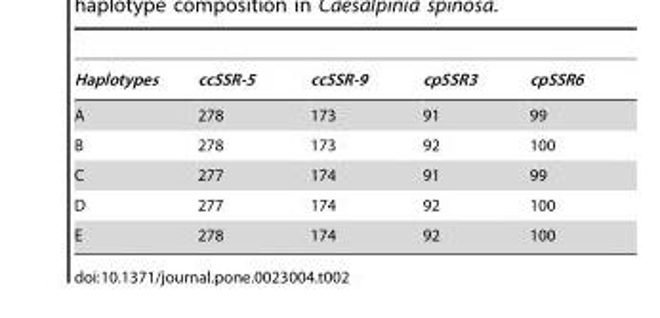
<table><thead><tr><td>Haplotypes</td><td>ccSSR-5</td><td>ccSSR-9</td><td>cpSSR3</td><td>cpSSR6</td></tr></thead><tbody><tr><td>A</td><td>278</td><td>173</td><td>91</td><td>99</td></tr><tr><td>B</td><td>278</td><td>173</td><td>92</td><td>100</td></tr><tr><td>C</td><td>277</td><td>174</td><td>91</td><td>99</td></tr><tr><td>D</td><td>277</td><td>174</td><td>92</td><td>100</td></tr><tr><td>E</td><td>278</td><td>174</td><td>92</td><td>100</td></tr></tbody></table>